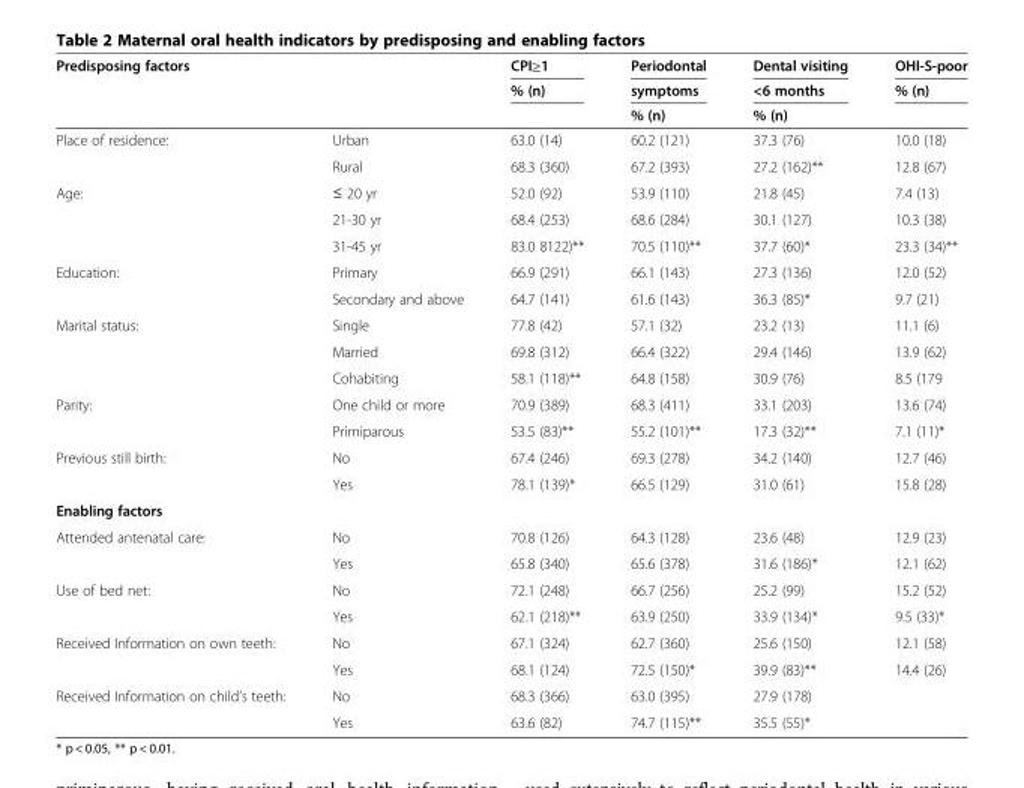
<table><thead><tr><td rowspan="3">Predisposing factors</td><td rowspan="3"></td><td rowspan="3">CPI≥1 % (n)</td><td rowspan="3">Periodontal symptoms % (n)</td><td rowspan="3">Dental visiting &lt;6 months % (n)</td><td rowspan="3">OHI-S-poor % (n)</td></tr><tr></tr><tr></tr></thead><tbody><tr><td rowspan="2">Place of residence:</td><td>Urban</td><td>63.0 (14)</td><td>60.2 (121)</td><td>37.3 (76)</td><td>10.0 (18)</td></tr><tr><td>Rural</td><td>68.3 (360)</td><td>67.2 (393)</td><td>27.2 (162)**</td><td>12.8 (67)</td></tr><tr><td rowspan="3">Age:</td><td>≤ 20 yr</td><td>52.0 (92)</td><td>53.9 (110)</td><td>21.8 (45)</td><td>7.4 (13)</td></tr><tr><td>21-30 yr</td><td>68.4 (253)</td><td>68.6 (284)</td><td>30.1 (127)</td><td>10.3 (38)</td></tr><tr><td>31-45 yr</td><td>83.0 8122)**</td><td>70.5 (110)**</td><td>37.7 (60)*</td><td>23.3 (34)**</td></tr><tr><td rowspan="2">Education:</td><td>Primary</td><td>66.9 (291)</td><td>66.1 (143)</td><td>27.3 (136)</td><td>12.0 (52)</td></tr><tr><td>Secondary and above</td><td>64.7 (141)</td><td>61.6 (143)</td><td>36.3 (85)*</td><td>9.7 (21)</td></tr><tr><td rowspan="3">Marital status:</td><td>Single</td><td>77.8 (42)</td><td>57.1 (32)</td><td>23.2 (13)</td><td>11.1 (6)</td></tr><tr><td>Married</td><td>69.8 (312)</td><td>66.4 (322)</td><td>29.4 (146)</td><td>13.9 (62)</td></tr><tr><td>Cohabiting</td><td>58.1 (118)**</td><td>64.8 (158)</td><td>30.9 (76)</td><td>8.5 (179</td></tr><tr><td rowspan="2">Parity:</td><td>One child or more</td><td>70.9 (389)</td><td>68.3 (411)</td><td>33.1 (203)</td><td>13.6 (74)</td></tr><tr><td>Primiparous</td><td>53.5 (83)**</td><td>55.2 (101)**</td><td>17.3 (32)**</td><td>7.1 (11)*</td></tr><tr><td rowspan="2">Previous still birth:</td><td>No</td><td>67.4 (246)</td><td>69.3 (278)</td><td>34.2 (140)</td><td>12.7 (46)</td></tr><tr><td>Yes</td><td>78.1 (139)*</td><td>66.5 (129)</td><td>31.0 (61)</td><td>15.8 (28)</td></tr><tr><td colspan="6">Enabling factors</td></tr><tr><td rowspan="2">Attended antenatal care:</td><td>No</td><td>70.8 (126)</td><td>64.3 (128)</td><td>23.6 (48)</td><td>12.9 (23)</td></tr><tr><td>Yes</td><td>65.8 (340)</td><td>65.6 (378)</td><td>31.6 (186)*</td><td>12.1 (62)</td></tr><tr><td rowspan="2">Use of bed net:</td><td>No</td><td>72.1 (248)</td><td>66.7 (256)</td><td>25.2 (99)</td><td>15.2 (52)</td></tr><tr><td>Yes</td><td>62.1 (218)**</td><td>63.9 (250)</td><td>33.9 (134)*</td><td>9.5 (33)*</td></tr><tr><td rowspan="2">Received Information on own teeth:</td><td>No</td><td>67.1 (324)</td><td>62.7 (360)</td><td>25.6 (150)</td><td>12.1 (58)</td></tr><tr><td>Yes</td><td>68.1 (124)</td><td>72.5 (150)*</td><td>39.9 (83)**</td><td>14.4 (26)</td></tr><tr><td rowspan="2">Received Information on child’s teeth:</td><td>No</td><td>68.3 (366)</td><td>63.0 (395)</td><td>27.9 (178)</td><td></td></tr><tr><td>Yes</td><td>63.6 (82)</td><td>74.7 (115)**</td><td>35.5 (55)*</td><td></td></tr></tbody></table>